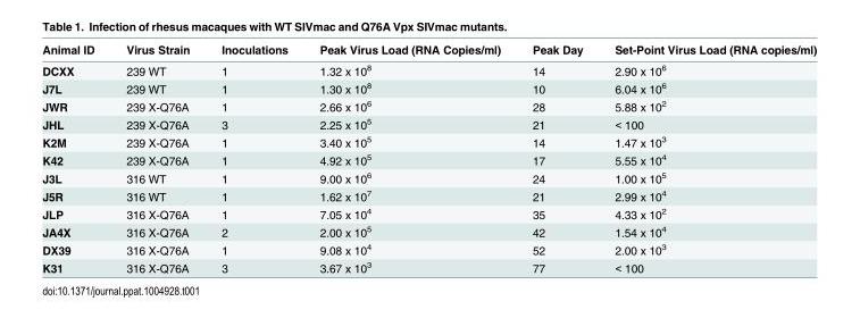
<table><thead><tr><td>Animal ID</td><td>Virus Strain</td><td>Inoculations</td><td>Peak Virus Load (RNA Copies/ml)</td><td>Peak Day</td><td>Set-Point Virus Load (RNA copies/ml)</td></tr></thead><tbody><tr><td>DCXX</td><td>239 WT</td><td>1</td><td>1.32 x 10<sup>8</sup></td><td>14</td><td>2.90 x 10<sup>6</sup></td></tr><tr><td>J7L</td><td>239 WT</td><td>1</td><td>1.30 x 10<sup>8</sup></td><td>10</td><td>6.04 x 10<sup>6</sup></td></tr><tr><td>JWR</td><td>239 X-Q76A</td><td>1</td><td>2.66 x 10<sup>6</sup></td><td>28</td><td>5.88 x 10<sup>2</sup></td></tr><tr><td>JHL</td><td>239 X-Q76A</td><td>3</td><td>2.25 x 10<sup>5</sup></td><td>21</td><td>&lt; 100</td></tr><tr><td>K2M</td><td>239 X-Q76A</td><td>1</td><td>3.40 x 10<sup>5</sup></td><td>14</td><td>1.47 x 10<sup>3</sup></td></tr><tr><td>K42</td><td>239 X-Q76A</td><td>1</td><td>4.92 x 10<sup>5</sup></td><td>17</td><td>5.55 x 10<sup>4</sup></td></tr><tr><td>J3L</td><td>316 WT</td><td>1</td><td>9.00 x 10<sup>6</sup></td><td>24</td><td>1.00 x 10<sup>5</sup></td></tr><tr><td>J5R</td><td>316 WT</td><td>1</td><td>1.62 x 10<sup>7</sup></td><td>21</td><td>2.99 x 10<sup>4</sup></td></tr><tr><td>JLP</td><td>316 X-Q76A</td><td>1</td><td>7.05 x 10<sup>4</sup></td><td>35</td><td>4.33 x 10<sup>2</sup></td></tr><tr><td>JA4X</td><td>316 X-Q76A</td><td>2</td><td>2.00 x 10<sup>5</sup></td><td>42</td><td>1.54 x 10<sup>4</sup></td></tr><tr><td>DX39</td><td>316 X-Q76A</td><td>1</td><td>9.08 x 10<sup>4</sup></td><td>52</td><td>2.00 x 10<sup>3</sup></td></tr><tr><td>K31</td><td>316 X-Q76A</td><td>3</td><td>3.67 x 10<sup>3</sup></td><td>77</td><td>&lt; 100</td></tr></tbody></table>